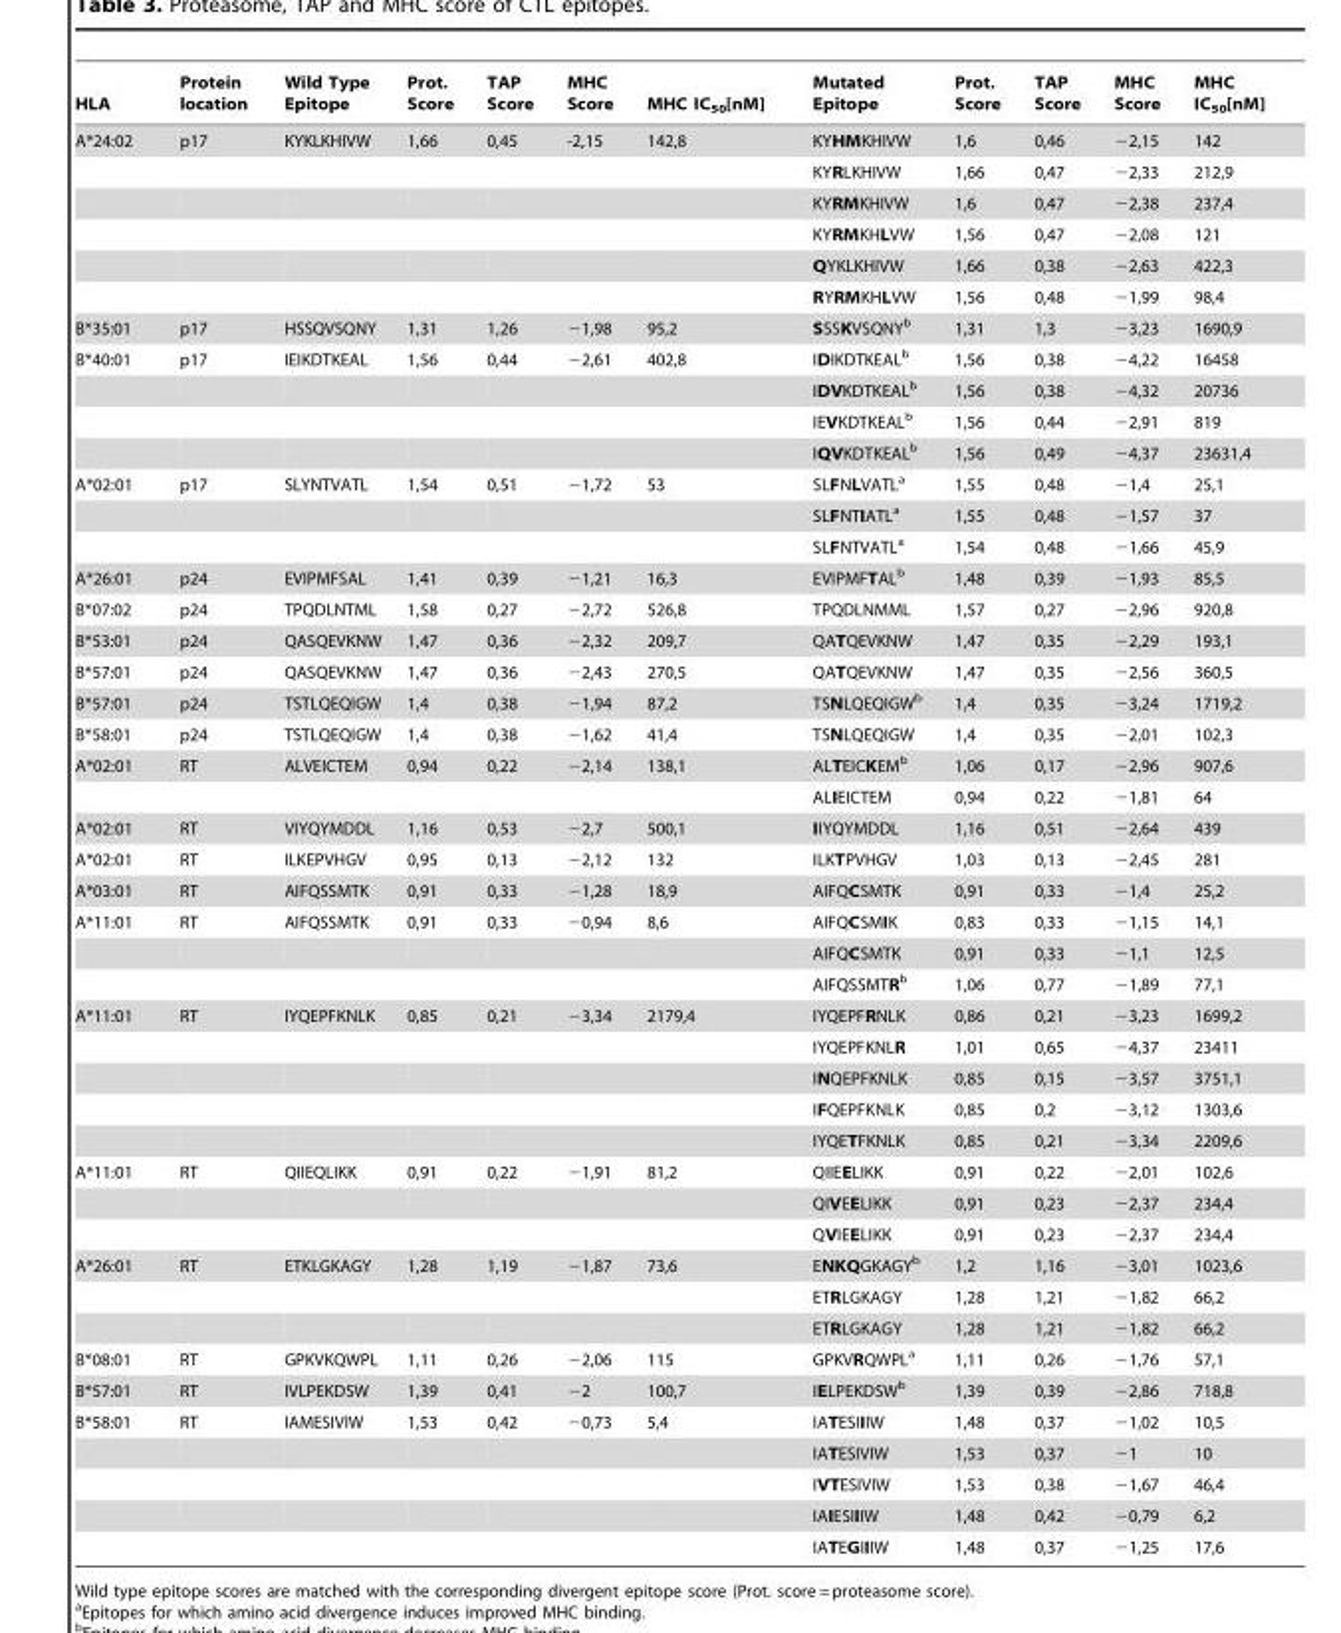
<table><thead><tr><td>HLA</td><td>Protein location</td><td>Wild Type Epitope</td><td>Prot. Score</td><td>TAP Score</td><td>MHC Score</td><td>MHC IC<sub>50</sub>[nM]</td><td>Mutated Epitope</td><td>Prot. Score</td><td>TAP Score</td><td>MHC Score</td><td>MHC IC<sub>50</sub>[nM]</td></tr></thead><tbody><tr><td rowspan="6">A*24:02</td><td>p17</td><td>KYKLKHIVW</td><td>1,66</td><td>0,45</td><td>-2,15</td><td>142,8</td><td>KYHMKHIVW</td><td>1,6</td><td>0,46</td><td>−2,15</td><td>142</td></tr><tr><td></td><td></td><td></td><td></td><td></td><td></td><td>KYRLKHIVW</td><td>1,66</td><td>0,47</td><td>−2,33</td><td>212,9</td></tr><tr><td></td><td></td><td></td><td></td><td></td><td></td><td>KYRMKHIVW</td><td>1,6</td><td>0,47</td><td>−2,38</td><td>237,4</td></tr><tr><td></td><td></td><td></td><td></td><td></td><td></td><td>KYRMKHLVW</td><td>1,56</td><td>0,47</td><td>−2,08</td><td>121</td></tr><tr><td></td><td></td><td></td><td></td><td></td><td></td><td>QYKLKHIVW</td><td>1,66</td><td>0,38</td><td>−2,63</td><td>422,3</td></tr><tr><td></td><td></td><td></td><td></td><td></td><td></td><td>RYRMKHLVW</td><td>1,56</td><td>0,48</td><td>−1,99</td><td>98,4</td></tr><tr><td>B*35:01</td><td>p17</td><td>HSSQVSQNY</td><td>1,31</td><td>1,26</td><td>−1,98</td><td>95,2</td><td>SSSKVSQNY<sup>b</sup></td><td>1,31</td><td>1,3</td><td>−3,23</td><td>1690,9</td></tr><tr><td rowspan="4">B*40:01</td><td>p17</td><td>IEIKDTKEAL</td><td>1,56</td><td>0,44</td><td>−2,61</td><td>402,8</td><td>IDIKDTKEAL<sup>b</sup></td><td>1,56</td><td>0,38</td><td>−4,22</td><td>16458</td></tr><tr><td></td><td></td><td></td><td></td><td></td><td></td><td>IDVKDTKEAL<sup>b</sup></td><td>1,56</td><td>0,38</td><td>−4,32</td><td>20736</td></tr><tr><td></td><td></td><td></td><td></td><td></td><td></td><td>IEVKDTKEAL<sup>b</sup></td><td>1,56</td><td>0,44</td><td>−2,91</td><td>819</td></tr><tr><td></td><td></td><td></td><td></td><td></td><td></td><td>IQVKDTKEAL<sup>b</sup></td><td>1,56</td><td>0,49</td><td>−4,37</td><td>23631,4</td></tr><tr><td rowspan="3">A*02:01</td><td>p17</td><td>SLYNTVATL</td><td>1,54</td><td>0,51</td><td>−1,72</td><td>53</td><td>SLFNLVATL<sup>a</sup></td><td>1,55</td><td>0,48</td><td>−1,4</td><td>25,1</td></tr><tr><td></td><td></td><td></td><td></td><td></td><td></td><td>SLFNTIATL<sup>a</sup></td><td>1,55</td><td>0,48</td><td>−1,57</td><td>37</td></tr><tr><td></td><td></td><td></td><td></td><td></td><td></td><td>SLFNTVATL<sup>a</sup></td><td>1,54</td><td>0,48</td><td>−1,66</td><td>45,9</td></tr><tr><td>A*26:01</td><td>p24</td><td>EVIPMFSAL</td><td>1,41</td><td>0,39</td><td>−1,21</td><td>16,3</td><td>EVIPMFTAL<sup>b</sup></td><td>1,48</td><td>0,39</td><td>−1,93</td><td>85,5</td></tr><tr><td>B*07:02</td><td>p24</td><td>TPQDLNTML</td><td>1,58</td><td>0,27</td><td>−2,72</td><td>526,8</td><td>TPQDLNMML</td><td>1,57</td><td>0,27</td><td>−2,96</td><td>920,8</td></tr><tr><td>B*53:01</td><td>p24</td><td>QASQEVKNW</td><td>1,47</td><td>0,36</td><td>−2,32</td><td>209,7</td><td>QATQEVKNW</td><td>1,47</td><td>0,35</td><td>−2,29</td><td>193,1</td></tr><tr><td>B*57:01</td><td>p24</td><td>QASQEVKNW</td><td>1,47</td><td>0,36</td><td>−2,43</td><td>270,5</td><td>QATQEVKNW</td><td>1,47</td><td>0,35</td><td>−2,56</td><td>360,5</td></tr><tr><td>B*57:01</td><td>p24</td><td>TSTLQEQIGW</td><td>1,4</td><td>0,38</td><td>−1,94</td><td>87,2</td><td>TSNLQEQIGW<sup>b</sup></td><td>1,4</td><td>0,35</td><td>−3,24</td><td>1719,2</td></tr><tr><td>B*58:01</td><td>p24</td><td>TSTLQEQIGW</td><td>1,4</td><td>0,38</td><td>−1,62</td><td>41,4</td><td>TSNLQEQIGW</td><td>1,4</td><td>0,35</td><td>−2,01</td><td>102,3</td></tr><tr><td rowspan="2">A*02:01</td><td>RT</td><td>ALVEICTEM</td><td>0,94</td><td>0,22</td><td>−2,14</td><td>138,1</td><td>ALTEICKEM<sup>b</sup></td><td>1,06</td><td>0,17</td><td>−2,96</td><td>907,6</td></tr><tr><td></td><td></td><td></td><td></td><td></td><td></td><td>ALIEICTEM</td><td>0,94</td><td>0,22</td><td>−1,81</td><td>64</td></tr><tr><td>A*02:01</td><td>RT</td><td>VIYQYMDDL</td><td>1,16</td><td>0,53</td><td>−2,7</td><td>500,1</td><td>IIYQYMDDL</td><td>1,16</td><td>0,51</td><td>−2,64</td><td>439</td></tr><tr><td>A*02:01</td><td>RT</td><td>ILKEPVHGV</td><td>0,95</td><td>0,13</td><td>−2,12</td><td>132</td><td>ILKTPVHGV</td><td>1,03</td><td>0,13</td><td>−2,45</td><td>281</td></tr><tr><td>A*03:01</td><td>RT</td><td>AIFQSSMTK</td><td>0,91</td><td>0,33</td><td>−1,28</td><td>18,9</td><td>AIFQCSMTK</td><td>0,91</td><td>0,33</td><td>−1,4</td><td>25,2</td></tr><tr><td rowspan="3">A*11:01</td><td>RT</td><td>AIFQSSMTK</td><td>0,91</td><td>0,33</td><td>−0,94</td><td>8,6</td><td>AIFQCSMIK</td><td>0,83</td><td>0,33</td><td>−1,15</td><td>14,1</td></tr><tr><td></td><td></td><td></td><td></td><td></td><td></td><td>AIFQCSMTK</td><td>0,91</td><td>0,33</td><td>−1,1</td><td>12,5</td></tr><tr><td></td><td></td><td></td><td></td><td></td><td></td><td>AIFQSSMTRb</td><td>1,06</td><td>0,77</td><td>−1,89</td><td>77,1</td></tr><tr><td rowspan="5">A*11:01</td><td>RT</td><td>IYQEPFKNLK</td><td>0,85</td><td>0,21</td><td>−3,34</td><td>2179,4</td><td>IYQEPFRNLK</td><td>0,86</td><td>0,21</td><td>−3,23</td><td>1699,2</td></tr><tr><td></td><td></td><td></td><td></td><td></td><td></td><td>IYQEPFKNLR</td><td>1,01</td><td>0,65</td><td>−4,37</td><td>23411</td></tr><tr><td></td><td></td><td></td><td></td><td></td><td></td><td>INQEPFKNLK</td><td>0,85</td><td>0,15</td><td>−3,57</td><td>3751,1</td></tr><tr><td></td><td></td><td></td><td></td><td></td><td></td><td>IFQEPFKNLK</td><td>0,85</td><td>0,2</td><td>−3,12</td><td>1303,6</td></tr><tr><td></td><td></td><td></td><td></td><td></td><td></td><td>IYQETFKNLK</td><td>0,85</td><td>0,21</td><td>−3,34</td><td>2209,6</td></tr><tr><td rowspan="3">A*11:01</td><td>RT</td><td>QIIEQLIKK</td><td>0,91</td><td>0,22</td><td>−1,91</td><td>81,2</td><td>QIIEELIKK</td><td>0,91</td><td>0,22</td><td>−2,01</td><td>102,6</td></tr><tr><td></td><td></td><td></td><td></td><td></td><td></td><td>QIVEELIKK</td><td>0,91</td><td>0,23</td><td>−2,37</td><td>234,4</td></tr><tr><td></td><td></td><td></td><td></td><td></td><td></td><td>QVIEELIKK</td><td>0,91</td><td>0,23</td><td>−2,37</td><td>234,4</td></tr><tr><td rowspan="3">A*26:01</td><td>RT</td><td>ETKLGKAGY</td><td>1,28</td><td>1,19</td><td>−1,87</td><td>73,6</td><td>ENKQGKAGY<sup>b</sup></td><td>1,2</td><td>1,16</td><td>−3,01</td><td>1023,6</td></tr><tr><td></td><td></td><td></td><td></td><td></td><td></td><td>ETRLGKAGY</td><td>1,28</td><td>1,21</td><td>−1,82</td><td>66,2</td></tr><tr><td></td><td></td><td></td><td></td><td></td><td></td><td>ETRLGKAGY</td><td>1,28</td><td>1,21</td><td>−1,82</td><td>66,2</td></tr><tr><td>B*08:01</td><td>RT</td><td>GPKVKQWPL</td><td>1,11</td><td>0,26</td><td>−2,06</td><td>115</td><td>GPKVRQWPL<sup>a</sup></td><td>1,11</td><td>0,26</td><td>−1,76</td><td>57,1</td></tr><tr><td>B*57:01</td><td>RT</td><td>IVLPEKDSW</td><td>1,39</td><td>0,41</td><td>−2</td><td>100,7</td><td>IELPEKDSW<sup>b</sup></td><td>1,39</td><td>0,39</td><td>−2,86</td><td>718,8</td></tr><tr><td rowspan="5">B*58:01</td><td>RT</td><td>IAMESIVIW</td><td>1,53</td><td>0,42</td><td>−0,73</td><td>5,4</td><td>IATESIIIW</td><td>1,48</td><td>0,37</td><td>−1,02</td><td>10,5</td></tr><tr><td></td><td></td><td></td><td></td><td></td><td></td><td>IATESIVIW</td><td>1,53</td><td>0,37</td><td>−1</td><td>10</td></tr><tr><td></td><td></td><td></td><td></td><td></td><td></td><td>IVTESIVIW</td><td>1,53</td><td>0,38</td><td>−1,67</td><td>46,4</td></tr><tr><td></td><td></td><td></td><td></td><td></td><td></td><td>IAIESIIIW</td><td>1,48</td><td>0,42</td><td>−0,79</td><td>6,2</td></tr><tr><td></td><td></td><td></td><td></td><td></td><td></td><td>IATEGIIIW</td><td>1,48</td><td>0,37</td><td>−1,25</td><td>17,6</td></tr></tbody></table>